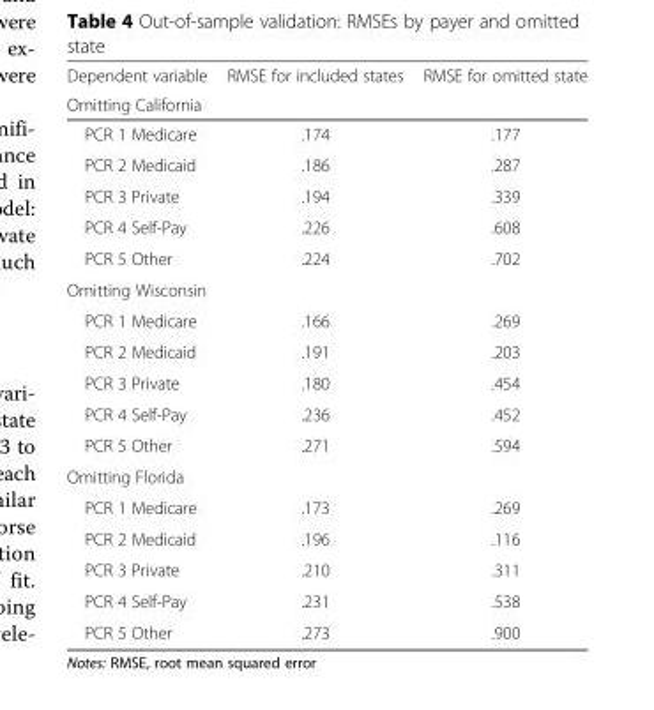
<table><thead><tr><td>Dependent variable</td><td>RMSE for included states</td><td>RMSE for omitted state</td></tr><tr><td colspan="3">Omitting California</td></tr></thead><tbody><tr><td>PCR 1 Medicare</td><td>.174</td><td>.177</td></tr><tr><td>PCR 2 Medicaid</td><td>.186</td><td>.287</td></tr><tr><td>PCR 3 Private</td><td>.194</td><td>.339</td></tr><tr><td>PCR 4 Self-Pay</td><td>.226</td><td>.608</td></tr><tr><td>PCR 5 Other</td><td>.224</td><td>.702</td></tr><tr><td colspan="3">Omitting Wisconsin</td></tr><tr><td>PCR 1 Medicare</td><td>.166</td><td>.269</td></tr><tr><td>PCR 2 Medicaid</td><td>.191</td><td>.203</td></tr><tr><td>PCR 3 Private</td><td>.180</td><td>.454</td></tr><tr><td>PCR 4 Self-Pay</td><td>.236</td><td>.452</td></tr><tr><td>PCR 5 Other</td><td>.271</td><td>.594</td></tr><tr><td colspan="3">Omitting Florida</td></tr><tr><td>PCR 1 Medicare</td><td>.173</td><td>.269</td></tr><tr><td>PCR 2 Medicaid</td><td>.196</td><td>.116</td></tr><tr><td>PCR 3 Private</td><td>.210</td><td>.311</td></tr><tr><td>PCR 4 Self-Pay</td><td>.231</td><td>.538</td></tr><tr><td>PCR 5 Other</td><td>.273</td><td>.900</td></tr></tbody></table>